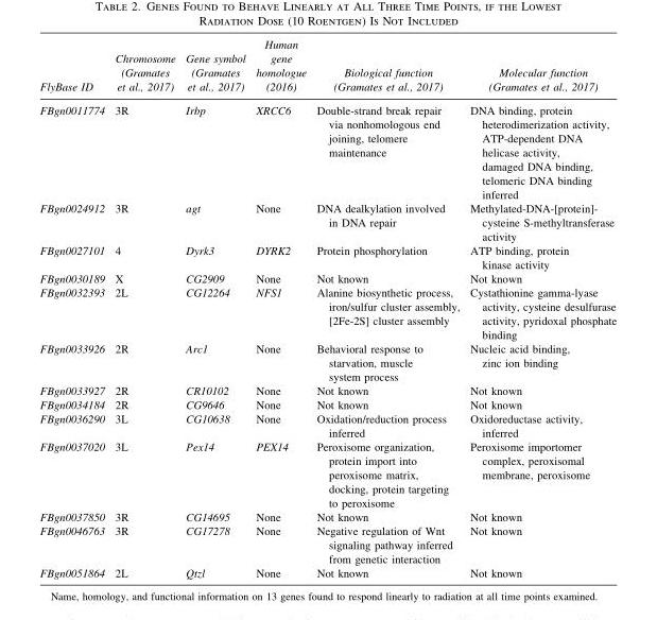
<table><thead><tr><td>FlyBase ID</td><td>Chromosome (Gramates et al., 2017)</td><td>Gene symbol (Gramates et al., 2017)</td><td>Human gene homologue (2016)</td><td>Biological function (Gramates et al., 2017)</td><td>Molecular function (Gramates et al., 2017)</td></tr></thead><tbody><tr><td>FBgn0011774</td><td>3R</td><td>Irbp</td><td>XRCC6</td><td>Double-strand break repair via nonhomologous end joining, telomere maintenance</td><td>DNA binding, protein heterodimerization activity, ATP-dependent DNA helicase activity, damaged DNA binding, telomeric DNA binding inferred</td></tr><tr><td>FBgn0024912</td><td>3R</td><td>agt</td><td>None</td><td>DNA dealkylation involved in DNA repair</td><td>Methylated-DNA-[protein]- cysteine S-methyltransferase activity</td></tr><tr><td>FBgn0027101</td><td>4</td><td>Dyrk3</td><td>DYRK2</td><td>Protein phosphorylation</td><td>ATP binding, protein kinase activity</td></tr><tr><td>FBgn0030189</td><td>X</td><td>CG2909</td><td>None</td><td>Not known</td><td>Not known</td></tr><tr><td>FBgn0032393</td><td>2L</td><td>CG12264</td><td>NFS1</td><td>Alanine biosynthetic process, iron/sulfur cluster assembly, [2Fe-2S] cluster assembly</td><td>Cystathionine gamma-lyase activity, cysteine desulfurase activity, pyridoxal phosphate binding</td></tr><tr><td>FBgn0033926</td><td>2R</td><td>Arc1</td><td>None</td><td>Behavioral response to starvation, muscle system process</td><td>Nucleic acid binding, zinc ion binding</td></tr><tr><td>FBgn0033927</td><td>2R</td><td>CR10102</td><td>None</td><td>Not known</td><td>Not known</td></tr><tr><td>FBgn0034184</td><td>2R</td><td>CG9646</td><td>None</td><td>Not known</td><td>Not known</td></tr><tr><td>FBgn0036290</td><td>3L</td><td>CG10638</td><td>None</td><td>Oxidation/reduction process inferred</td><td>Oxidoreductase activity, inferred</td></tr><tr><td>FBgn0037020</td><td>3L</td><td>Pex14</td><td>PEX14</td><td>Peroxisome organization, protein import into peroxisome matrix, docking, protein targeting to peroxisome</td><td>Peroxisome importomer complex, peroxisomal membrane, peroxisome</td></tr><tr><td>FBgn0037850</td><td>3R</td><td>CG14695</td><td>None</td><td>Not known</td><td>Not known</td></tr><tr><td>FBgn0046763</td><td>3R</td><td>CG17278</td><td>None</td><td>Negative regulation of Wnt signaling pathway inferred from genetic interaction</td><td>Not known</td></tr><tr><td>FBgn0051864</td><td>2L</td><td>Qtzl</td><td>None</td><td>Not known</td><td>Not known</td></tr></tbody></table>